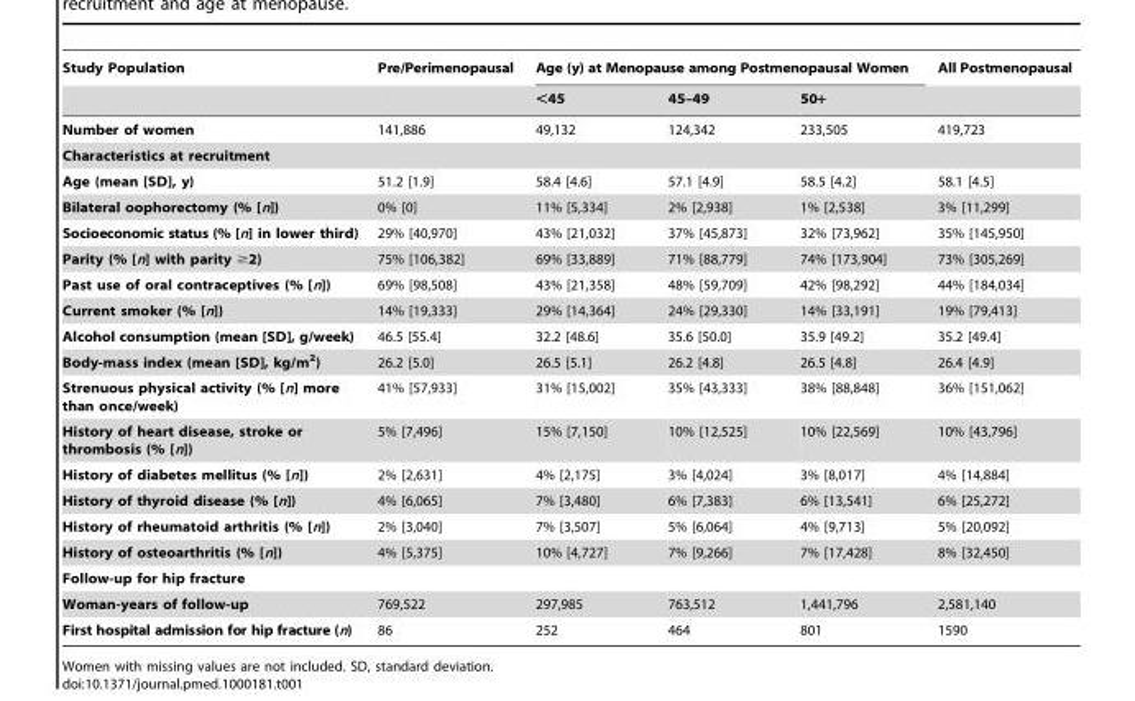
<table><thead><tr><td rowspan="2">Study Population</td><td rowspan="2">Pre/Perimenopausal</td><td colspan="3">Age (y) at Menopause among Postmenopausal Women</td><td rowspan="2">All Postmenopausal</td></tr><tr><td>&lt;45</td><td>45–49</td><td>50+</td></tr></thead><tbody><tr><td>Number of women</td><td>141,886</td><td>49,132</td><td>124,342</td><td>233,505</td><td>419,723</td></tr><tr><td colspan="6">Characteristics at recruitment</td></tr><tr><td>Age (mean [SD], y)</td><td>51.2 [1.9]</td><td>58.4 [4.6]</td><td>57.1 [4.9]</td><td>58.5 [4.2]</td><td>58.1 [4.5]</td></tr><tr><td>Bilateral oophorectomy (% [n])</td><td>0% [0]</td><td>11% [5,334]</td><td>2% [2,938]</td><td>1% [2,538]</td><td>3% [11,299]</td></tr><tr><td>Socioeconomic status (% [n] in lower third)</td><td>29% [40,970]</td><td>43% [21,032]</td><td>37% [45,873]</td><td>32% [73,962]</td><td>35% [145,950]</td></tr><tr><td>Parity (% [n] with parity ≥2)</td><td>75% [106,382]</td><td>69% [33,889]</td><td>71% [88,779]</td><td>74% [173,904]</td><td>73% [305,269]</td></tr><tr><td>Past use of oral contraceptives (% [n])</td><td>69% [98,508]</td><td>43% [21,358]</td><td>48% [59,709]</td><td>42% [98,292]</td><td>44% [184,034]</td></tr><tr><td>Current smoker (% [n])</td><td>14% [19,333]</td><td>29% [14,364]</td><td>24% [29,330]</td><td>14% [33,191]</td><td>19% [79,413]</td></tr><tr><td>Alcohol consumption (mean [SD], g/week)</td><td>46.5 [55.4]</td><td>32.2 [48.6]</td><td>35.6 [50.0]</td><td>35.9 [49.2]</td><td>35.2 [49.4]</td></tr><tr><td>Body-mass index (mean [SD], kg/m<sup>2</sup>)</td><td>26.2 [5.0]</td><td>26.5 [5.1]</td><td>26.2 [4.8]</td><td>26.5 [4.8]</td><td>26.4 [4.9]</td></tr><tr><td>Strenuous physical activity (% [n] more than once/week)</td><td>41% [57,933]</td><td>31% [15,002]</td><td>35% [43,333]</td><td>38% [88,848]</td><td>36% [151,062]</td></tr><tr><td>History of heart disease, stroke or thrombosis (% [n])</td><td>5% [7,496]</td><td>15% [7,150]</td><td>10% [12,525]</td><td>10% [22,569]</td><td>10% [43,796]</td></tr><tr><td>History of diabetes mellitus (% [n])</td><td>2% [2,631]</td><td>4% [2,175]</td><td>3% [4,024]</td><td>3% [8,017]</td><td>4% [14,884]</td></tr><tr><td>History of thyroid disease (% [n])</td><td>4% [6,065]</td><td>7% [3,480]</td><td>6% [7,383]</td><td>6% [13,541]</td><td>6% [25,272]</td></tr><tr><td>History of rheumatoid arthritis (% [n])</td><td>2% [3,040]</td><td>7% [3,507]</td><td>5% [6,064]</td><td>4% [9,713]</td><td>5% [20,092]</td></tr><tr><td>History of osteoarthritis (% [n])</td><td>4% [5,375]</td><td>10% [4,727]</td><td>7% [9,266]</td><td>7% [17,428]</td><td>8% [32,450]</td></tr><tr><td colspan="6">Follow-up for hip fracture</td></tr><tr><td>Woman-years of follow-up</td><td>769,522</td><td>297,985</td><td>763,512</td><td>1,441,796</td><td>2,581,140</td></tr><tr><td>First hospital admission for hip fracture (n)</td><td>86</td><td>252</td><td>464</td><td>801</td><td>1590</td></tr></tbody></table>